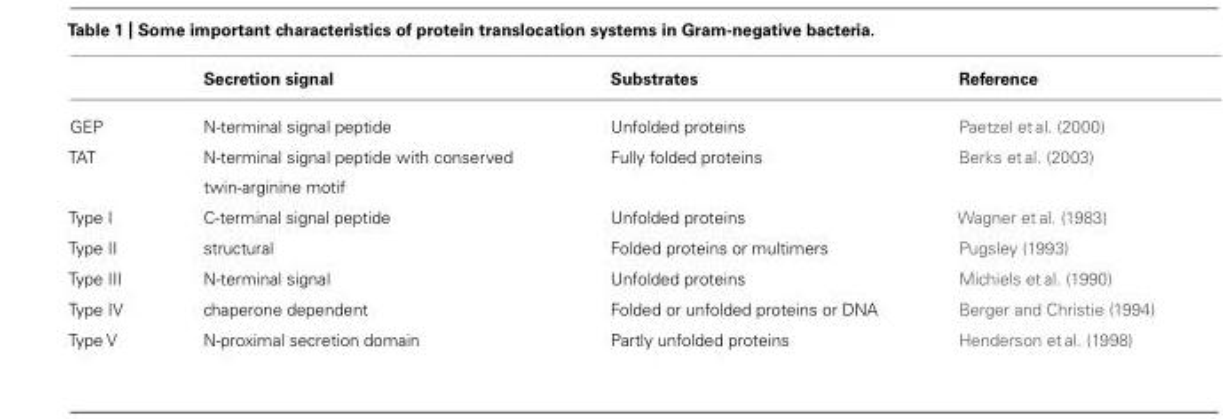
<table><thead><tr><td></td><td>Secretion signal</td><td>Substrates</td><td>Reference</td></tr></thead><tbody><tr><td>GEP</td><td>N-terminal signal peptide</td><td>Unfolded proteins</td><td>Paetzel et al. (2000)</td></tr><tr><td>TAT</td><td>N-terminal signal peptide with conserved twin-arginine motif</td><td>Fully folded proteins</td><td>Berks et al. (2003)</td></tr><tr><td>Type I</td><td>C-terminal signal peptide</td><td>Unfolded proteins</td><td>Wagner et al. (1983)</td></tr><tr><td>Type II</td><td>structural</td><td>Folded proteins or multimers</td><td>Pugsley (1993)</td></tr><tr><td>Type III</td><td>N-terminal signal</td><td>Unfolded proteins</td><td>Michiels et al. (1990)</td></tr><tr><td>Type IV</td><td>chaperone dependent</td><td>Folded or unfolded proteins or DNA</td><td>Berger and Christie (1994)</td></tr><tr><td>Type V</td><td>N-proximal secretion domain</td><td>Partly unfolded proteins</td><td>Henderson et al. (1998)</td></tr></tbody></table>